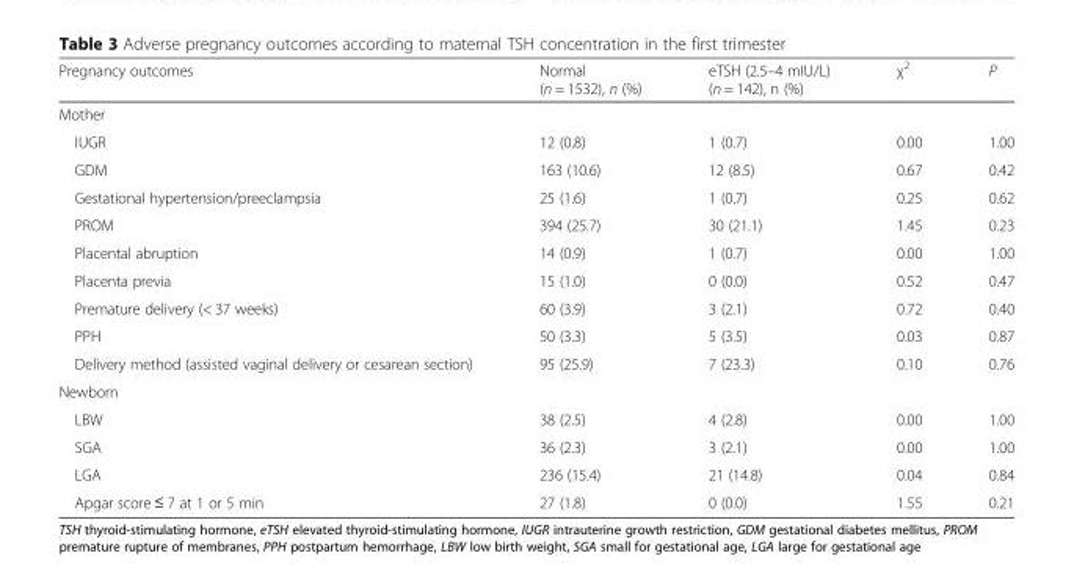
<table><thead><tr><td>Pregnancy outcomes</td><td>Normal (n = 1532), n (%)</td><td>eTSH (2.5–4 mIU/L) (n = 142), n (%)</td><td>χ<sup>2</sup></td><td>P</td></tr></thead><tbody><tr><td colspan="5">Mother</td></tr><tr><td>IUGR</td><td>12 (0.8)</td><td>1 (0.7)</td><td>0.00</td><td>1.00</td></tr><tr><td>GDM</td><td>163 (10.6)</td><td>12 (8.5)</td><td>0.67</td><td>0.42</td></tr><tr><td>Gestational hypertension/preeclampsia</td><td>25 (1.6)</td><td>1 (0.7)</td><td>0.25</td><td>0.62</td></tr><tr><td>PROM</td><td>394 (25.7)</td><td>30 (21.1)</td><td>1.45</td><td>0.23</td></tr><tr><td>Placental abruption</td><td>14 (0.9)</td><td>1 (0.7)</td><td>0.00</td><td>1.00</td></tr><tr><td>Placenta previa</td><td>15 (1.0)</td><td>0 (0.0)</td><td>0.52</td><td>0.47</td></tr><tr><td>Premature delivery (&lt; 37 weeks)</td><td>60 (3.9)</td><td>3 (2.1)</td><td>0.72</td><td>0.40</td></tr><tr><td>PPH</td><td>50 (3.3)</td><td>5 (3.5)</td><td>0.03</td><td>0.87</td></tr><tr><td>Delivery method (assisted vaginal delivery or cesarean section)</td><td>95 (25.9)</td><td>7 (23.3)</td><td>0.10</td><td>0.76</td></tr><tr><td colspan="5">Newborn</td></tr><tr><td>LBW</td><td>38 (2.5)</td><td>4 (2.8)</td><td>0.00</td><td>1.00</td></tr><tr><td>SGA</td><td>36 (2.3)</td><td>3 (2.1)</td><td>0.00</td><td>1.00</td></tr><tr><td>LGA</td><td>236 (15.4)</td><td>21 (14.8)</td><td>0.04</td><td>0.84</td></tr><tr><td>Apgar score ≤ 7 at 1 or 5 min</td><td>27 (1.8)</td><td>0 (0.0)</td><td>1.55</td><td>0.21</td></tr></tbody></table>